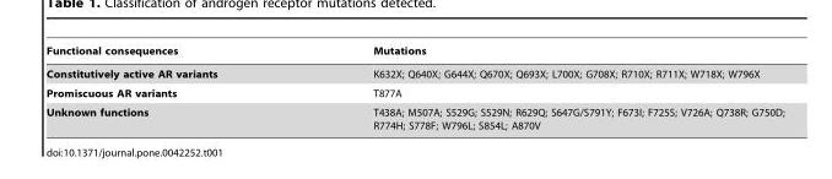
<table><thead><tr><td>Functional consequences</td><td>Mutations</td></tr></thead><tbody><tr><td>Constitutively active AR variants</td><td>K632X; Q640X; G644X; Q670X; Q693X; L700X; G708X; R710X; R711X; W718X; W796X</td></tr><tr><td>Promiscuous AR variants</td><td>T877A</td></tr><tr><td>Unknown functions</td><td>T438A; M507A; S529G; S529N; R629Q; S647G/S791Y; F673I; F725S; V726A; Q738R; G750D; R774H; S778F; W796L; S854L; A870V</td></tr></tbody></table>